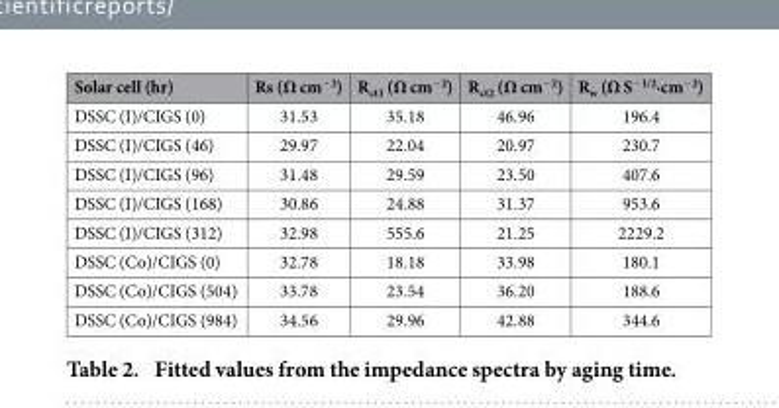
<table><thead><tr><td>Solar cell (hr)</td><td>Rs (Ω cm<sup>−2</sup>)</td><td>R<sub>ct1</sub> (Ω cm<sup>−2</sup>)</td><td>R<sub>ct2</sub> (Ω cm<sup>−2</sup>)</td><td>R<sub>w</sub> (Ω S<sup>−1/2</sup>∙cm<sup>−2</sup>)</td></tr></thead><tbody><tr><td>DSSC (I)/CIGS (0)</td><td>31.53</td><td>35.18</td><td>46.96</td><td>196.4</td></tr><tr><td>DSSC (I)/CIGS (46)</td><td>29.97</td><td>22.04</td><td>20.97</td><td>230.7</td></tr><tr><td>DSSC (I)/CIGS (96)</td><td>31.48</td><td>29.59</td><td>23.50</td><td>407.6</td></tr><tr><td>DSSC (I)/CIGS (168)</td><td>30.86</td><td>24.88</td><td>31.37</td><td>953.6</td></tr><tr><td>DSSC (I)/CIGS (312)</td><td>32.98</td><td>555.6</td><td>21.25</td><td>2229.2</td></tr><tr><td>DSSC (Co)/CIGS (0)</td><td>32.78</td><td>18.18</td><td>33.98</td><td>180.1</td></tr><tr><td>DSSC (Co)/CIGS (504)</td><td>33.78</td><td>23.54</td><td>36.20</td><td>188.6</td></tr><tr><td>DSSC (Co)/CIGS (984)</td><td>34.56</td><td>29.96</td><td>42.88</td><td>344.6</td></tr></tbody></table>